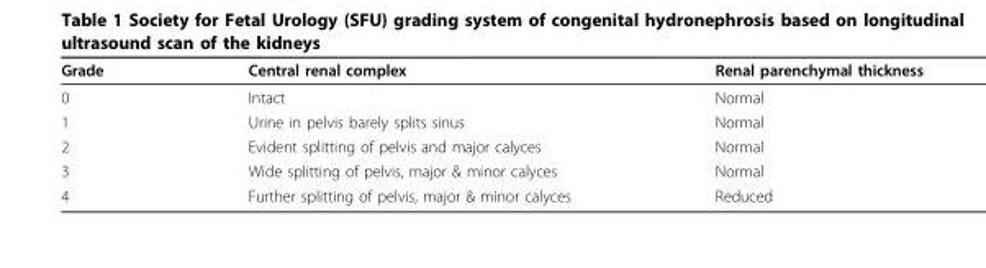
<table><thead><tr><td>Grade</td><td>Central renal complex</td><td>Renal parenchymal thickness</td></tr></thead><tbody><tr><td>0</td><td>Intact</td><td>Normal</td></tr><tr><td>1</td><td>Urine in pelvis barely splits sinus</td><td>Normal</td></tr><tr><td>2</td><td>Evident splitting of pelvis and major calyces</td><td>Normal</td></tr><tr><td>3</td><td>Wide splitting of pelvis, major &amp; minor calyces</td><td>Normal</td></tr><tr><td>4</td><td>Further splitting of pelvis, major &amp; minor calyces</td><td>Reduced</td></tr></tbody></table>